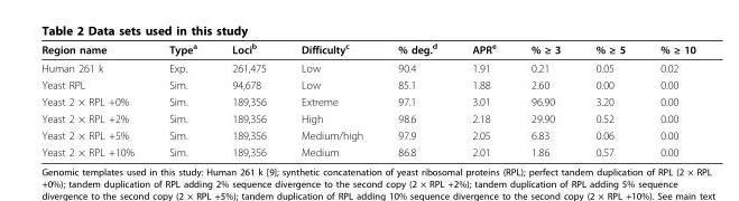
<table><thead><tr><td>Region name</td><td>Type<sup>a</sup></td><td>Loci<sup>b</sup></td><td>Difficulty<sup>c</sup></td><td>% deg.<sup>d</sup></td><td>APR<sup>e</sup></td><td>% ≥ 3</td><td>% ≥ 5</td><td>% ≥ 10</td></tr></thead><tbody><tr><td>Human 261 k</td><td>Exp.</td><td>261,475</td><td>Low</td><td>90.4</td><td>1.91</td><td>0.21</td><td>0.05</td><td>0.02</td></tr><tr><td>Yeast RPL</td><td>Sim.</td><td>94,678</td><td>Low</td><td>85.1</td><td>1.88</td><td>2.60</td><td>0.00</td><td>0.00</td></tr><tr><td>Yeast 2 × RPL +0%</td><td>Sim.</td><td>189,356</td><td>Extreme</td><td>97.1</td><td>3.01</td><td>96.90</td><td>3.20</td><td>0.00</td></tr><tr><td>Yeast 2 × RPL +2%</td><td>Sim.</td><td>189,356</td><td>High</td><td>98.6</td><td>2.18</td><td>29.90</td><td>0.52</td><td>0.00</td></tr><tr><td>Yeast 2 × RPL +5%</td><td>Sim.</td><td>189,356</td><td>Medium/high</td><td>97.9</td><td>2.05</td><td>6.83</td><td>0.06</td><td>0.00</td></tr><tr><td>Yeast 2 × RPL +10%</td><td>Sim.</td><td>189,356</td><td>Medium</td><td>86.8</td><td>2.01</td><td>1.86</td><td>0.57</td><td>0.00</td></tr></tbody></table>